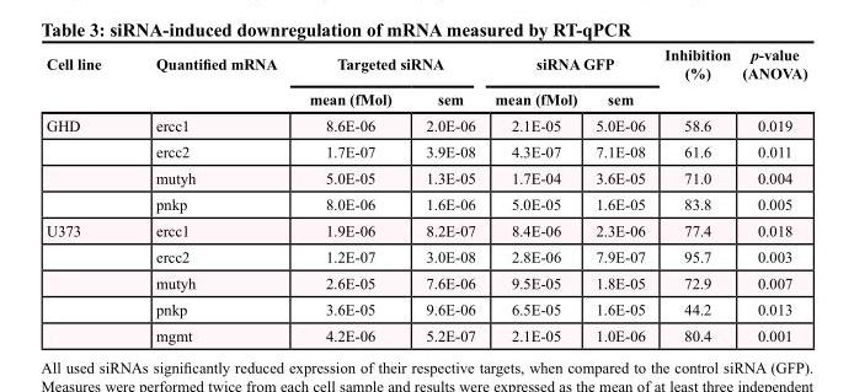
<table><thead><tr><td rowspan="2">Cell line</td><td rowspan="2">Quantified mRNA</td><td colspan="2">Targeted siRNA</td><td colspan="2">siRNA GFP</td><td rowspan="2">Inhibition (%)</td><td rowspan="2">p-value (ANOVA)</td></tr><tr><td>mean (fMol)</td><td>sem</td><td>mean (fMol)</td><td>sem</td></tr></thead><tbody><tr><td rowspan="4">GHD</td><td>ercc1</td><td>8.6E-06</td><td>2.0E-06</td><td>2.1E-05</td><td>5.0E-06</td><td>58.6</td><td>0.019</td></tr><tr><td>ercc2</td><td>1.7E-07</td><td>3.9E-08</td><td>4.3E-07</td><td>7.1E-08</td><td>61.6</td><td>0.011</td></tr><tr><td>mutyh</td><td>5.0E-05</td><td>1.3E-05</td><td>1.7E-04</td><td>3.6E-05</td><td>71.0</td><td>0.004</td></tr><tr><td>pnkp</td><td>8.0E-06</td><td>1.6E-06</td><td>5.0E-05</td><td>1.6E-05</td><td>83.8</td><td>0.005</td></tr><tr><td rowspan="5">U373</td><td>ercc1</td><td>1.9E-06</td><td>8.2E-07</td><td>8.4E-06</td><td>2.3E-06</td><td>77.4</td><td>0.018</td></tr><tr><td>ercc2</td><td>1.2E-07</td><td>3.0E-08</td><td>2.8E-06</td><td>7.9E-07</td><td>95.7</td><td>0.003</td></tr><tr><td>mutyh</td><td>2.6E-05</td><td>7.6E-06</td><td>9.5E-05</td><td>1.8E-05</td><td>72.9</td><td>0.007</td></tr><tr><td>pnkp</td><td>3.6E-05</td><td>9.6E-06</td><td>6.5E-05</td><td>1.6E-05</td><td>44.2</td><td>0.013</td></tr><tr><td>mgmt</td><td>4.2E-06</td><td>5.2E-07</td><td>2.1E-05</td><td>1.0E-06</td><td>80.4</td><td>0.001</td></tr></tbody></table>